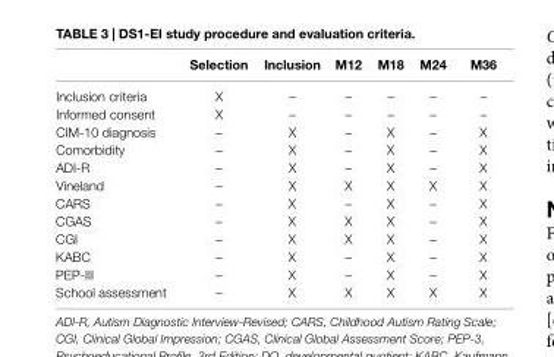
<table><thead><tr><td></td><td>Selection</td><td>inclusion</td><td>M12</td><td>M18</td><td>M24</td><td>M36</td></tr></thead><tbody><tr><td>Inclusion criteria</td><td>X</td><td>–</td><td>–</td><td>–</td><td>–</td><td>–</td></tr><tr><td>Informed consent</td><td>X</td><td>–</td><td>–</td><td>–</td><td>–</td><td>–</td></tr><tr><td>CIM-10 diagnosis</td><td>–</td><td>X</td><td>–</td><td>X</td><td>–</td><td>X</td></tr><tr><td>Comorbidity</td><td>–</td><td>X</td><td>–</td><td>X</td><td>–</td><td>X</td></tr><tr><td>ADI-R</td><td>–</td><td>X</td><td>–</td><td>X</td><td>–</td><td>X</td></tr><tr><td>Vineland</td><td>–</td><td>X</td><td>X</td><td>X</td><td>X</td><td>X</td></tr><tr><td>CARS</td><td>–</td><td>X</td><td>–</td><td>X</td><td>–</td><td>X</td></tr><tr><td>CGAS</td><td>–</td><td>X</td><td>X</td><td>X</td><td>–</td><td>X</td></tr><tr><td>CGI</td><td>–</td><td>X</td><td>X</td><td>X</td><td>–</td><td>X</td></tr><tr><td>KABC</td><td>–</td><td>X</td><td>–</td><td>X</td><td>–</td><td>X</td></tr><tr><td>PEP-III</td><td>–</td><td>X</td><td>–</td><td>X</td><td>–</td><td>X</td></tr><tr><td>School assessment</td><td>–</td><td>X</td><td>X</td><td>X</td><td>X</td><td>X</td></tr></tbody></table>